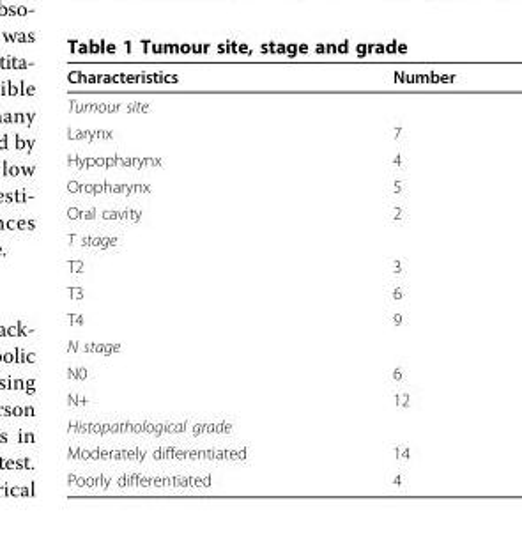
<table><thead><tr><td>Characteristics</td><td>Number</td></tr></thead><tbody><tr><td colspan="2">Tumour site</td></tr><tr><td>Larynx</td><td>7</td></tr><tr><td>Hypopharynx</td><td>4</td></tr><tr><td>Oropharynx</td><td>5</td></tr><tr><td>Oral cavity</td><td>2</td></tr><tr><td colspan="2">T stage</td></tr><tr><td>T2</td><td>3</td></tr><tr><td>T3</td><td>6</td></tr><tr><td>T4</td><td>9</td></tr><tr><td colspan="2">N stage</td></tr><tr><td>N0</td><td>6</td></tr><tr><td>N+</td><td>12</td></tr><tr><td colspan="2">Histopathological grade</td></tr><tr><td>Moderately differentiated</td><td>14</td></tr><tr><td>Poorly differentiated</td><td>4</td></tr></tbody></table>